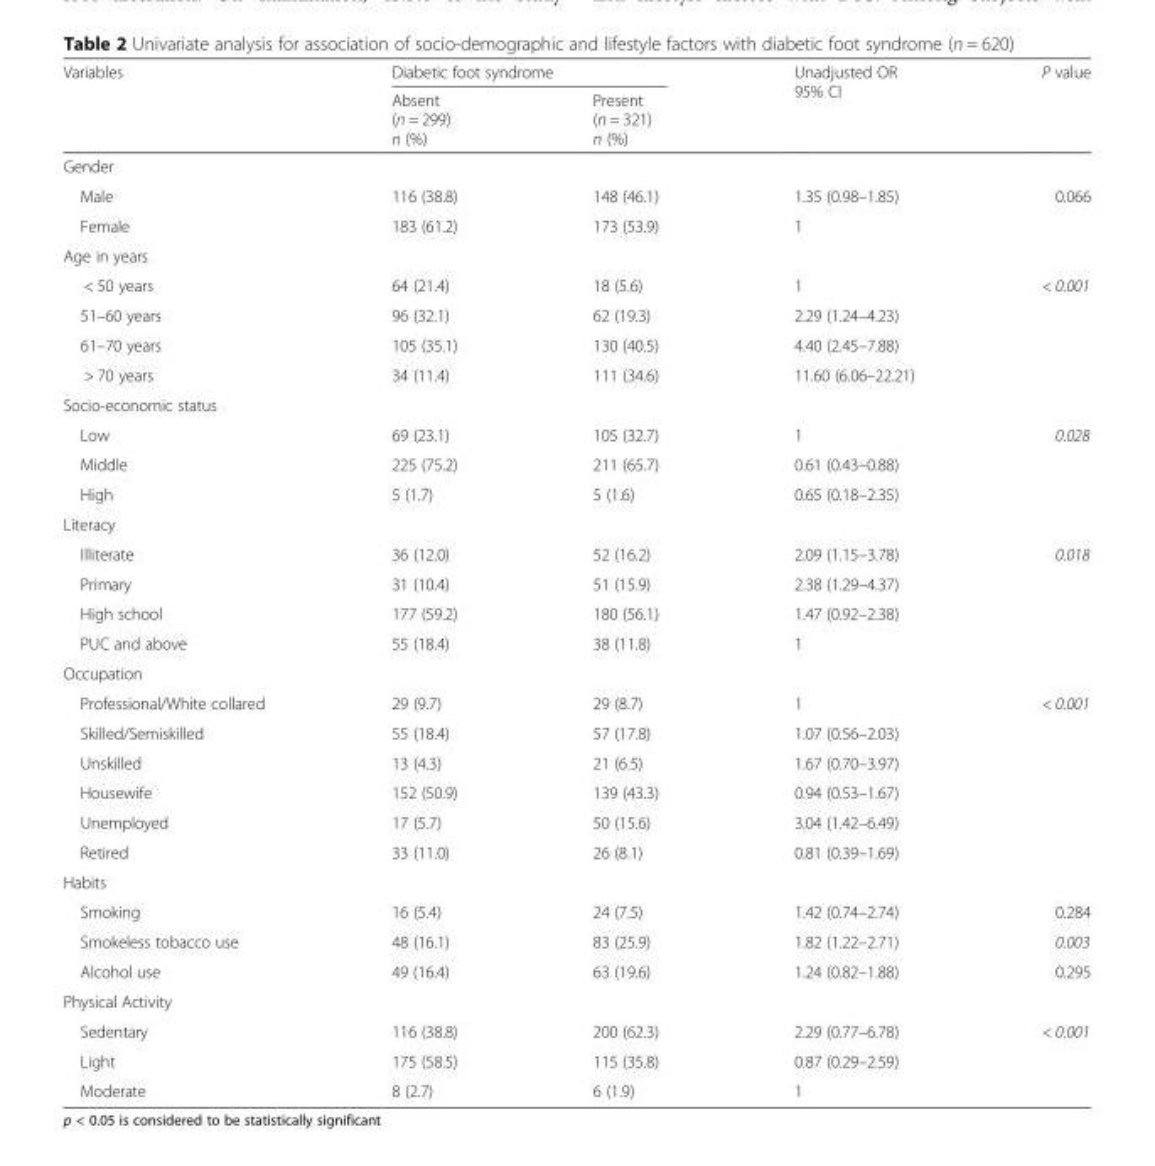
<table><thead><tr><td rowspan="2">Variables</td><td colspan="2">Diabetic foot syndrome</td><td rowspan="2">Unadjusted OR 95% CI</td><td rowspan="2">P value</td></tr><tr><td>Absent (n = 299) n (%)</td><td>Present (n = 321) n (%)</td></tr></thead><tbody><tr><td colspan="5">Gender</td></tr><tr><td>Male</td><td>116 (38.8)</td><td>148 (46.1)</td><td>1.35 (0.98–1.85)</td><td rowspan="2">0.066</td></tr><tr><td>Female</td><td>183 (61.2)</td><td>173 (53.9)</td><td>1</td></tr><tr><td colspan="5">Age in years</td></tr><tr><td>&lt; 50 years</td><td>64 (21.4)</td><td>18 (5.6)</td><td>1</td><td rowspan="4">&lt; 0.001</td></tr><tr><td>51–60 years</td><td>96 (32.1)</td><td>62 (19.3)</td><td>2.29 (1.24–4.23)</td></tr><tr><td>61–70 years</td><td>105 (35.1)</td><td>130 (40.5)</td><td>4.40 (2.45–7.88)</td></tr><tr><td>&gt; 70 years</td><td>34 (11.4)</td><td>111 (34.6)</td><td>11.60 (6.06–22.21)</td></tr><tr><td colspan="5">Socio-economic status</td></tr><tr><td>Low</td><td>69 (23.1)</td><td>105 (32.7)</td><td>1</td><td rowspan="3">0.028</td></tr><tr><td>Middle</td><td>225 (75.2)</td><td>211 (65.7)</td><td>0.61 (0.43–0.88)</td></tr><tr><td>High</td><td>5 (1.7)</td><td>5 (1.6)</td><td>0.65 (0.18–2.35)</td></tr><tr><td colspan="5">Literacy</td></tr><tr><td>Illiterate</td><td>36 (12.0)</td><td>52 (16.2)</td><td>2.09 (1.15–3.78)</td><td rowspan="4">0.018</td></tr><tr><td>Primary</td><td>31 (10.4)</td><td>51 (15.9)</td><td>2.38 (1.29–4.37)</td></tr><tr><td>High school</td><td>177 (59.2)</td><td>180 (56.1)</td><td>1.47 (0.92–2.38)</td></tr><tr><td>PUC and above</td><td>55 (18.4)</td><td>38 (11.8)</td><td>1</td></tr><tr><td colspan="5">Occupation</td></tr><tr><td>Professional/White collared</td><td>29 (9.7)</td><td>29 (8.7)</td><td>1</td><td rowspan="6">&lt; 0.001</td></tr><tr><td>Skilled/Semiskilled</td><td>55 (18.4)</td><td>57 (17.8)</td><td>1.07 (0.56–2.03)</td></tr><tr><td>Unskilled</td><td>13 (4.3)</td><td>21 (6.5)</td><td>1.67 (0.70–3.97)</td></tr><tr><td>Housewife</td><td>152 (50.9)</td><td>139 (43.3)</td><td>0.94 (0.53–1.67)</td></tr><tr><td>Unemployed</td><td>17 (5.7)</td><td>50 (15.6)</td><td>3.04 (1.42–6.49)</td></tr><tr><td>Retired</td><td>33 (11.0)</td><td>26 (8.1)</td><td>0.81 (0.39–1.69)</td></tr><tr><td colspan="5">Habits</td></tr><tr><td>Smoking</td><td>16 (5.4)</td><td>24 (7.5)</td><td>1.42 (0.74–2.74)</td><td>0.284</td></tr><tr><td>Smokeless tobacco use</td><td>48 (16.1)</td><td>83 (25.9)</td><td>1.82 (1.22–2.71)</td><td>0.003</td></tr><tr><td>Alcohol use</td><td>49 (16.4)</td><td>63 (19.6)</td><td>1.24 (0.82–1.88)</td><td>0.295</td></tr><tr><td colspan="5">Physical Activity</td></tr><tr><td>Sedentary</td><td>116 (38.8)</td><td>200 (62.3)</td><td>2.29 (0.77–6.78)</td><td rowspan="3">&lt; 0.001</td></tr><tr><td>Light</td><td>175 (58.5)</td><td>115 (35.8)</td><td>0.87 (0.29–2.59)</td></tr><tr><td>Moderate</td><td>8 (2.7)</td><td>6 (1.9)</td><td>1</td></tr></tbody></table>